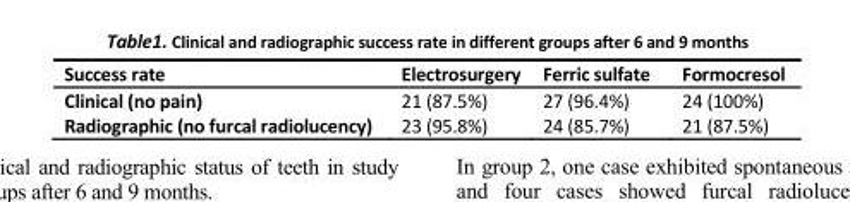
<table><thead><tr><td>Success rate</td><td>Electrosurgery</td><td>Ferric sulfate</td><td>Formocresol</td></tr></thead><tbody><tr><td>Clinical (no pain)</td><td>21 (87.5%)</td><td>27 (96.4%)</td><td>24 (100%)</td></tr><tr><td>Radiographic (no furcal radiolucency)</td><td>23 (95.8%)</td><td>24 (85.7%)</td><td>21 (87.5%)</td></tr></tbody></table>